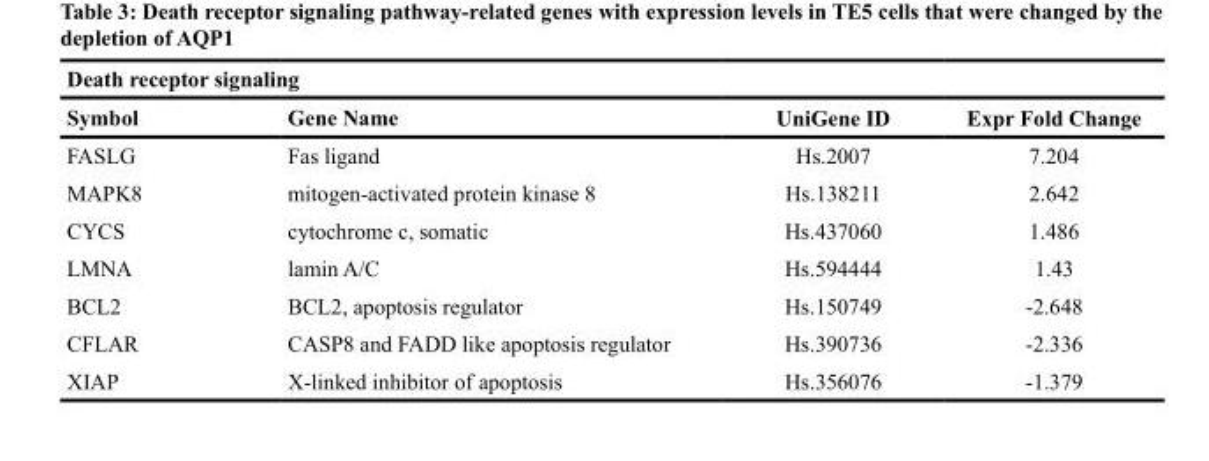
<table><thead><tr><td colspan="4">Death receptor signaling</td></tr><tr><td>Symbol</td><td>Gene Name</td><td>UniGene ID</td><td>Expr Fold Change</td></tr></thead><tbody><tr><td>FASLG</td><td>Fas ligand</td><td>Hs.2007</td><td>7.204</td></tr><tr><td>MAPK8</td><td>mitogen-activated protein kinase 8</td><td>Hs.138211</td><td>2.642</td></tr><tr><td>CYCS</td><td>cytochrome c, somatic</td><td>Hs.437060</td><td>1.486</td></tr><tr><td>LMNA</td><td>lamin A/C</td><td>Hs.594444</td><td>1.43</td></tr><tr><td>BCL2</td><td>BCL2, apoptosis regulator</td><td>Hs.150749</td><td>-2.648</td></tr><tr><td>CFLAR</td><td>CASP8 and FADD like apoptosis regulator</td><td>Hs.390736</td><td>-2.336</td></tr><tr><td>XIAP</td><td>X-linked inhibitor of apoptosis</td><td>Hs.356076</td><td>-1.379</td></tr></tbody></table>